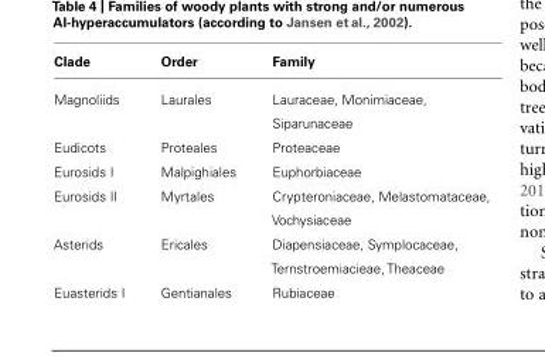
<table><thead><tr><td>Clade</td><td>Order</td><td>Family</td></tr></thead><tbody><tr><td>Magnoliids</td><td>Laurales</td><td>Lauraceae, Monimiaceae, Siparunaceae</td></tr><tr><td>Eudicots</td><td>Proteales</td><td>Proteaceae</td></tr><tr><td>Eurosids I</td><td>Malpighiales</td><td>Euphorbiaceae</td></tr><tr><td>Eurosids II</td><td>Myrtales</td><td>Crypteroniaceae, Melastomataceae, Vochysiaceae</td></tr><tr><td>Asterids</td><td>Ericales</td><td>Diapensiaceae, Symplocaceae, Ternstroemiacieae, Theaceae</td></tr><tr><td>Euasterids I</td><td>Gentianales</td><td>Rubiaceae</td></tr></tbody></table>